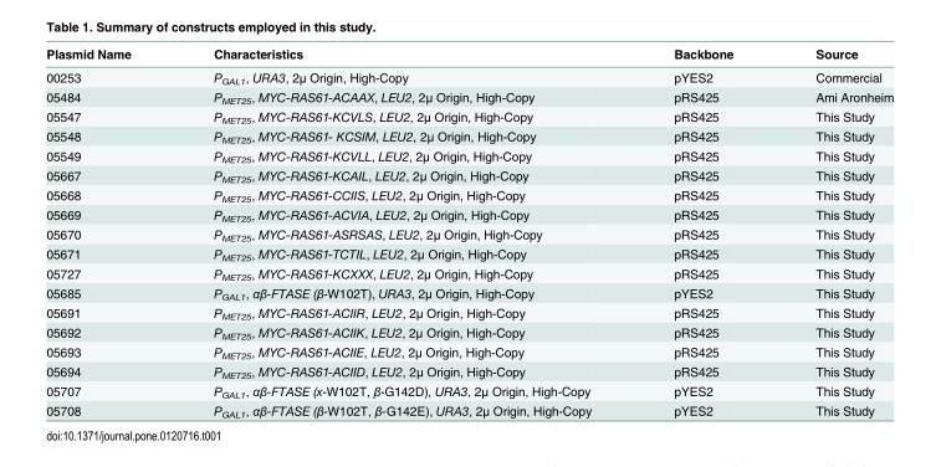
<table><thead><tr><td>Plasmid Name</td><td>Characteristics</td><td>Backbone</td><td>Source</td></tr></thead><tbody><tr><td>00253</td><td>P<sub>GAL1</sub>, URA3, 2μ Origin, High-Copy</td><td>pYES2</td><td>Commercial</td></tr><tr><td>05484</td><td>P<sub>MET25</sub>, MYC-RAS61-ACAAX, LEU2, 2μ Origin, High-Copy</td><td>pRS425</td><td>Ami Aronheim</td></tr><tr><td>05547</td><td>P<sub>MET25</sub>, MYC-RAS61-KCVLS, LEU2, 2μ Origin, High-Copy</td><td>pRS425</td><td>This Study</td></tr><tr><td>05548</td><td>P<sub>MET25</sub>, MYC-RAS61- KCSIM, LEU2, 2μ Origin, High-Copy</td><td>pRS425</td><td>This Study</td></tr><tr><td>05549</td><td>P<sub>MET25</sub>, MYC-RAS61-KCVLL, LEU2, 2μ Origin, High-Copy</td><td>pRS425</td><td>This Study</td></tr><tr><td>05667</td><td>P<sub>MET25</sub>, MYC-RAS61-KCAIL, LEU2, 2μ Origin, High-Copy</td><td>pRS425</td><td>This Study</td></tr><tr><td>05668</td><td>P<sub>MET25</sub>, MYC-RAS61-CCIIS, LEU2, 2μ Origin, High-Copy</td><td>pRS425</td><td>This Study</td></tr><tr><td>05669</td><td>P<sub>MET25</sub>, MYC-RAS61-ACVIA, LEU2, 2μ Origin, High-Copy</td><td>pRS425</td><td>This Study</td></tr><tr><td>05670</td><td>P<sub>MET25</sub>, MYC-RAS61-ASRSAS, LEU2, 2μ Origin, High-Copy</td><td>pRS425</td><td>This Study</td></tr><tr><td>05671</td><td>P<sub>MET25</sub>, MYC-RAS61-TCTIL, LEU2, 2μ Origin, High-Copy</td><td>pRS425</td><td>This Study</td></tr><tr><td>05727</td><td>P<sub>MET25</sub>, MYC-RAS61-KCXXX, LEU2, 2μ Origin, High-Copy</td><td>pRS425</td><td>This Study</td></tr><tr><td>05685</td><td>P<sub>GAL1</sub>, αβ-FTASE (β-W102T), URA3, 2μ Origin, High-Copy</td><td>pYES2</td><td>This Study</td></tr><tr><td>05691</td><td>P<sub>MET25</sub>, MYC-RAS61-ACIIR, LEU2, 2μ Origin, High-Copy</td><td>pRS425</td><td>This Study</td></tr><tr><td>05692</td><td>P<sub>MET25</sub>, MYC-RAS61-ACIIK, LEU2, 2μ Origin, High-Copy</td><td>pRS425</td><td>This Study</td></tr><tr><td>05693</td><td>P<sub>MET25</sub>, MYC-RAS61-ACIIE, LEU2, 2μ Origin, High-Copy</td><td>pRS425</td><td>This Study</td></tr><tr><td>05694</td><td>P<sub>MET25</sub>, MYC-RAS61-ACIID, LEU2, 2μ Origin, High-Copy</td><td>pRS425</td><td>This Study</td></tr><tr><td>05707</td><td>P<sub>GAL1</sub>, αβ-FTASE (x-W102T, β-G142D), URA3, 2μ Origin, High-Copy</td><td>pYES2</td><td>This Study</td></tr><tr><td>05708</td><td>P<sub>GAL1</sub>, αβ-FTASE (β-W102T, β-G142E), URA3, 2μ Origin, High-Copy</td><td>pYES2</td><td>This Study</td></tr></tbody></table>